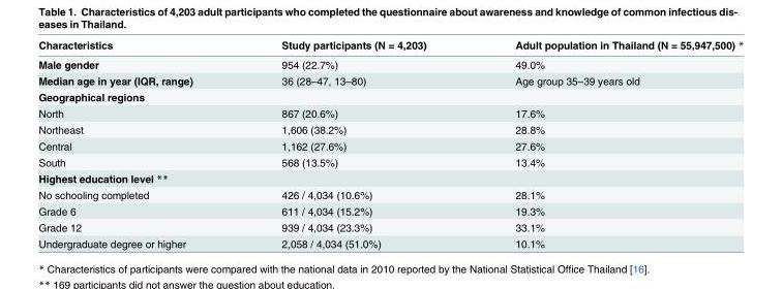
<table><thead><tr><td>Characteristics</td><td>Study participants (N = 4,203)</td><td>Adult population in Thailand (N = 55,947,500) *</td></tr></thead><tbody><tr><td>Male gender</td><td>954 (22.7%)</td><td>49.0%</td></tr><tr><td>Median age in year (IQR, range)</td><td>36 (28–47, 13–80)</td><td>Age group 35–39 years old</td></tr><tr><td colspan="3">Geographical regions</td></tr><tr><td>North</td><td>867 (20.6%)</td><td>17.6%</td></tr><tr><td>Northeast</td><td>1,606 (38.2%)</td><td>28.8%</td></tr><tr><td>Central</td><td>1,162 (27.6%)</td><td>27.6%</td></tr><tr><td>South</td><td>568 (13.5%)</td><td>13.4%</td></tr><tr><td colspan="3">Highest education level **</td></tr><tr><td>No schooling completed</td><td>426 / 4,034 (10.6%)</td><td>28.1%</td></tr><tr><td>Grade 6</td><td>611 / 4,034 (15.2%)</td><td>19.3%</td></tr><tr><td>Grade 12</td><td>939 / 4,034 (23.3%)</td><td>33.1%</td></tr><tr><td>Undergraduate degree or higher</td><td>2,058 / 4,034 (51.0%)</td><td>10.1%</td></tr></tbody></table>